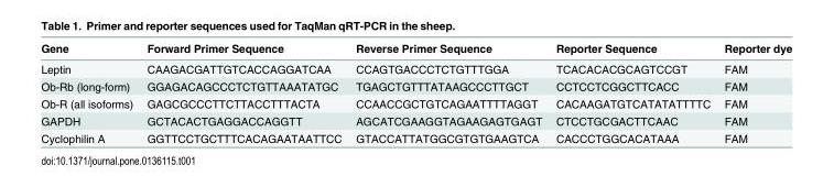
<table><thead><tr><td>Gene</td><td>Forward Primer Sequence</td><td>Reverse Primer Sequence</td><td>Reporter Sequence</td><td>Reporter dye</td></tr></thead><tbody><tr><td>Leptin</td><td>CAAGACGATTGTCACCAGGATCAA</td><td>CCAGTGACCCTCTGTTTGGA</td><td>TCACACACGCAGTCCGT</td><td>FAM</td></tr><tr><td>Ob-Rb (long-form)</td><td>GGAGACAGCCCTCTGTTAAATATGC</td><td>TGAGCTGTTTATAAGCCCTTGCT</td><td>CCTCCTCGGCTTCACC</td><td>FAM</td></tr><tr><td>Ob-R (all isoforms)</td><td>GAGCGCCCTTCTTACCTTTACTA</td><td>CCAACCGCTGTCAGAATTTTAGGT</td><td>CACAAGATGTCATATATTTTC</td><td>FAM</td></tr><tr><td>GAPDH</td><td>GCTACACTGAGGACCAGGTT</td><td>AGCATCGAAGGTAGAAGAGTGAGT</td><td>CTCCTGCGACTTCAAC</td><td>FAM</td></tr><tr><td>Cyclophilin A</td><td>GGTTCCTGCTTTCACAGAATAATTCC</td><td>GTACCATTATGGCGTGTGAAGTCA</td><td>CACCCTGGCACATAAA</td><td>FAM</td></tr></tbody></table>